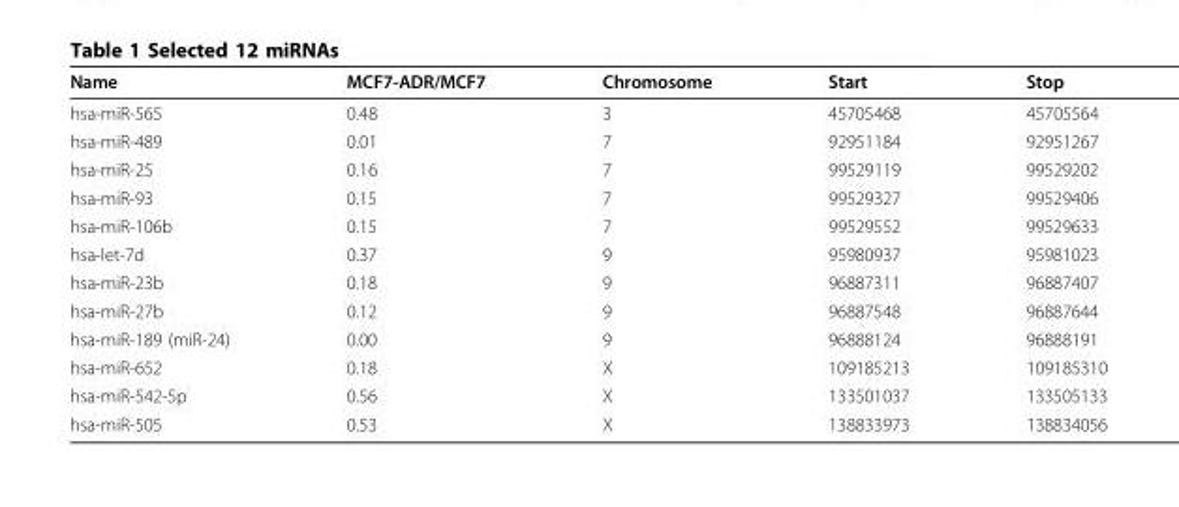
<table><thead><tr><td>Name</td><td>MCF7-ADR/MCF7</td><td>Chromosome</td><td>Start</td><td>Stop</td></tr></thead><tbody><tr><td>hsa-miR-565</td><td>0.48</td><td>3</td><td>45705468</td><td>45705564</td></tr><tr><td>hsa-miR-489</td><td>0.01</td><td>7</td><td>92951184</td><td>92951267</td></tr><tr><td>hsa-miR-25</td><td>0.16</td><td>7</td><td>99529119</td><td>99529202</td></tr><tr><td>hsa-miR-93</td><td>0.15</td><td>7</td><td>99529327</td><td>99529406</td></tr><tr><td>hsa-miR-106b</td><td>0.15</td><td>7</td><td>99529552</td><td>99529633</td></tr><tr><td>hsa-let-7d</td><td>0.37</td><td>9</td><td>95980937</td><td>95981023</td></tr><tr><td>hsa-miR-23b</td><td>0.18</td><td>9</td><td>96887311</td><td>96887407</td></tr><tr><td>hsa-miR-27b</td><td>0.12</td><td>9</td><td>96887548</td><td>96887644</td></tr><tr><td>hsa-miR-189 (miR-24)</td><td>0.00</td><td>9</td><td>96888124</td><td>96888191</td></tr><tr><td>hsa-miR-652</td><td>0.18</td><td>X</td><td>109185213</td><td>109185310</td></tr><tr><td>hsa-miR-542-5p</td><td>0.56</td><td>X</td><td>133501037</td><td>133505133</td></tr><tr><td>hsa-miR-505</td><td>0.53</td><td>X</td><td>138833973</td><td>138834056</td></tr></tbody></table>